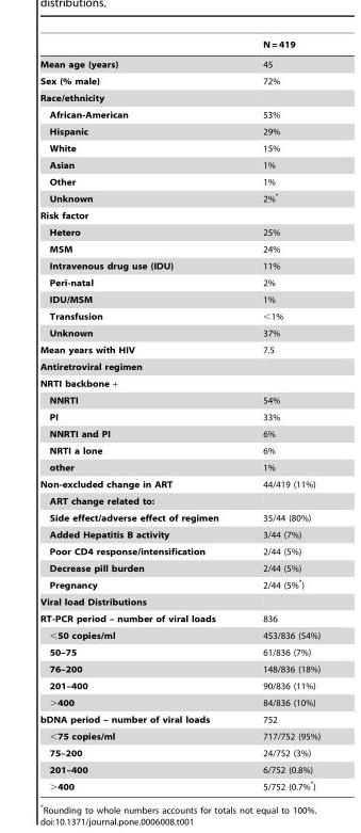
<table><thead><tr><td></td><td>N = 419</td></tr></thead><tbody><tr><td>Mean age (years)</td><td>45</td></tr><tr><td>Sex (% male)</td><td>72%</td></tr><tr><td colspan="2">Race/ethnicity</td></tr><tr><td>African-American</td><td>53%</td></tr><tr><td>Hispanic</td><td>29%</td></tr><tr><td>White</td><td>15%</td></tr><tr><td>Asian</td><td>1%</td></tr><tr><td>Other</td><td>1%</td></tr><tr><td>Unknown</td><td>2%*</td></tr><tr><td colspan="2">Risk factor</td></tr><tr><td>Hetero</td><td>25%</td></tr><tr><td>MSM</td><td>24%</td></tr><tr><td>Intravenous drug use (IDU)</td><td>11%</td></tr><tr><td>Peri-natal</td><td>2%</td></tr><tr><td>IDU/MSM</td><td>1%</td></tr><tr><td>Transfusion</td><td>&lt;1%</td></tr><tr><td>Unknown</td><td>37%</td></tr><tr><td>Mean years with HIV</td><td>7.5</td></tr><tr><td colspan="2">Antiretroviral regimen</td></tr><tr><td colspan="2">NRTI backbone +</td></tr><tr><td>NNRTI</td><td>54%</td></tr><tr><td>PI</td><td>33%</td></tr><tr><td>NNRTI and PI</td><td>6%</td></tr><tr><td>NRTI a lone</td><td>6%</td></tr><tr><td>other</td><td>1%</td></tr><tr><td>Non-excluded change in ART</td><td>44/419 (11%)</td></tr><tr><td colspan="2">ART change related to:</td></tr><tr><td>Side effect/adverse effect of regimen</td><td>35/44 (80%)</td></tr><tr><td>Added Hepatitis B activity</td><td>3/44 (7%)</td></tr><tr><td>Poor CD4 response/intensification</td><td>2/44 (5%)</td></tr><tr><td>Decrease pill burden</td><td>2/44 (5%)</td></tr><tr><td>Pregnancy</td><td>2/44 (5%*)</td></tr><tr><td colspan="2">Viral load Distributions</td></tr><tr><td>RT-PCR period – number of viral loads</td><td>836</td></tr><tr><td>&lt;50 copies/ml</td><td>453/836 (54%)</td></tr><tr><td>50–75</td><td>61/836 (7%)</td></tr><tr><td>76–200</td><td>148/836 (18%)</td></tr><tr><td>201–400</td><td>90/836 (11%)</td></tr><tr><td>&gt;400</td><td>84/836 (10%)</td></tr><tr><td>bDNA period – number of viral loads</td><td>752</td></tr><tr><td>&lt;75 copies/ml</td><td>717/752 (95%)</td></tr><tr><td>75–200</td><td>24/752 (3%)</td></tr><tr><td>201–400</td><td>6/752 (0.8%)</td></tr><tr><td>&gt;400</td><td>5/752 (0.7%*)</td></tr></tbody></table>